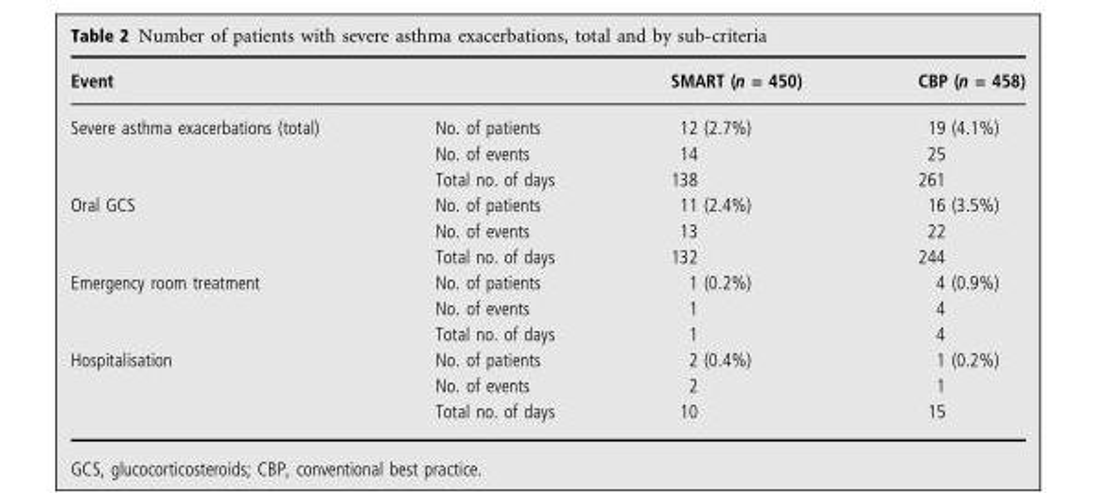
<table><thead><tr><td>Event</td><td></td><td>SMART (n = 450)</td><td>CBP (n = 458)</td></tr></thead><tbody><tr><td rowspan="3">Severe asthma exacerbations (total)</td><td>No. of patients</td><td>12 (2.7%)</td><td>19 (4.1%)</td></tr><tr><td>No. of events</td><td>14</td><td>25</td></tr><tr><td>Total no. of days</td><td>138</td><td>261</td></tr><tr><td rowspan="3">Oral GCS</td><td>No. of patients</td><td>11 (2.4%)</td><td>16 (3.5%)</td></tr><tr><td>No. of events</td><td>13</td><td>22</td></tr><tr><td>Total no. of days</td><td>132</td><td>244</td></tr><tr><td rowspan="3">Emergency room treatment</td><td>No. of patients</td><td>1 (0.2%)</td><td>4 (0.9%)</td></tr><tr><td>No. of events</td><td>1</td><td>4</td></tr><tr><td>Total no. of days</td><td>1</td><td>4</td></tr><tr><td rowspan="3">Hospitalisation</td><td>No. of patients</td><td>2 (0.4%)</td><td>1 (0.2%)</td></tr><tr><td>No. of events</td><td>2</td><td>1</td></tr><tr><td>Total no. of days</td><td>10</td><td>15</td></tr></tbody></table>